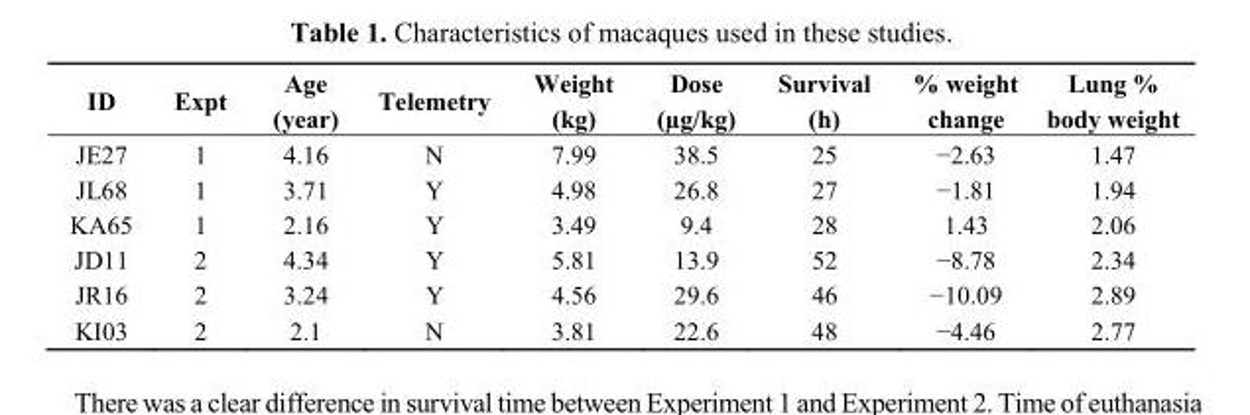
<table><thead><tr><td>ID</td><td>Expt</td><td>Age (year)</td><td>Telemetry</td><td>Weight (kg)</td><td>Dose (µg/kg)</td><td>Survival (h)</td><td>% weight change</td><td>Lung % body weight</td></tr></thead><tbody><tr><td>JE27</td><td>1</td><td>4.16</td><td>N</td><td>7.99</td><td>38.5</td><td>25</td><td>−2.63</td><td>1.47</td></tr><tr><td>JL68</td><td>1</td><td>3.71</td><td>Y</td><td>4.98</td><td>26.8</td><td>27</td><td>−1.81</td><td>1.94</td></tr><tr><td>KA65</td><td>1</td><td>2.16</td><td>Y</td><td>3.49</td><td>9.4</td><td>28</td><td>1.43</td><td>2.06</td></tr><tr><td>JD11</td><td>2</td><td>4.34</td><td>Y</td><td>5.81</td><td>13.9</td><td>52</td><td>−8.78</td><td>2.34</td></tr><tr><td>JR16</td><td>2</td><td>3.24</td><td>Y</td><td>4.56</td><td>29.6</td><td>46</td><td>−10.09</td><td>2.89</td></tr><tr><td>KI03</td><td>2</td><td>2.1</td><td>N</td><td>3.81</td><td>22.6</td><td>48</td><td>−4.46</td><td>2.77</td></tr></tbody></table>